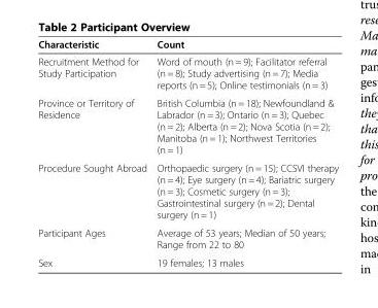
<table><thead><tr><td>Characteristic</td><td>Count</td></tr></thead><tbody><tr><td>Recruitment Method for Study Participation</td><td>Word of mouth (n = 9); Facilitator referral (n = 8); Study advertising (n = 7); Media reports (n = 5); Online testimonials (n = 3)</td></tr><tr><td>Province or Territory of Residence</td><td>British Columbia (n = 18); Newfoundland &amp; Labrador (n = 3); Ontario (n = 3); Quebec (n = 2); Alberta (n = 2); Nova Scotia (n = 2); Manitoba (n = 1); Northwest Territories (n = 1)</td></tr><tr><td>Procedure Sought Abroad</td><td>Orthopaedic surgery (n = 15); CCSVI therapy (n = 4); Eye surgery (n = 4); Bariatric surgery (n = 3); Cosmetic surgery (n = 3); Gastrointestinal surgery (n = 2); Dental surgery (n = 1)</td></tr><tr><td>Participant Ages</td><td>Average of 53 years; Median of 50 years; Range from 22 to 80</td></tr><tr><td>Sex</td><td>19 females; 13 males</td></tr></tbody></table>